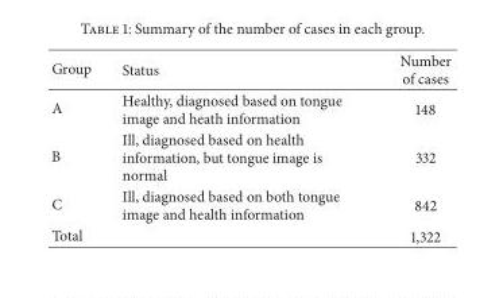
<table><thead><tr><td>Group</td><td>Status</td><td>Number of cases</td></tr></thead><tbody><tr><td>A</td><td>Healthy, diagnosed based on tongue image and heath information</td><td>148</td></tr><tr><td>B</td><td>Ill, diagnosed based on health information, but tongue image is normal</td><td>332</td></tr><tr><td>C</td><td>Ill, diagnosed based on both tongue image and health information</td><td>842</td></tr><tr><td>Total</td><td></td><td>1,322</td></tr></tbody></table>